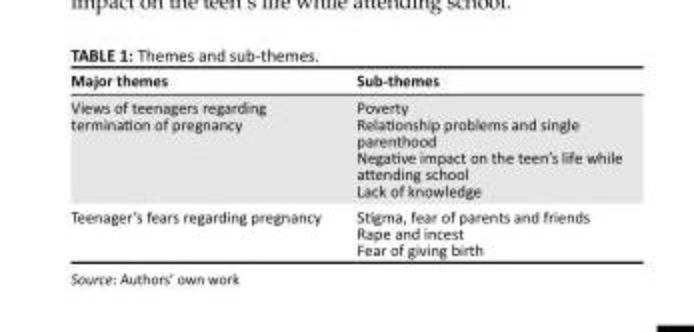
<table><thead><tr><td>Major themes</td><td>Sub-themes</td></tr></thead><tbody><tr><td>Views of teenagers regarding termination of pregnancy</td><td>Poverty Relationship problems and single parenthood Negative impact on the teen’s life while attending school Lack of knowledge</td></tr><tr><td>Teenager’s fears regarding pregnancy</td><td>Stigma, fear of parents and friends Rape and incest Fear of giving birth</td></tr></tbody></table>